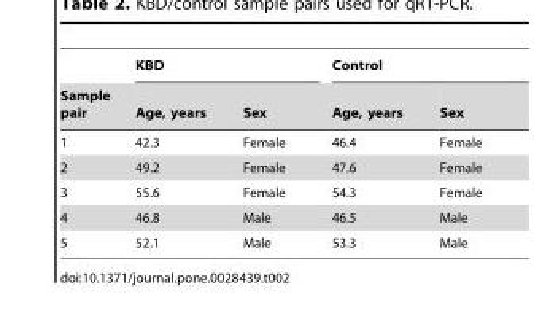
<table><thead><tr><td rowspan="2">Sample pair</td><td colspan="2">KBD</td><td colspan="2">Control</td></tr><tr><td>Age, years</td><td>Sex</td><td>Age, years</td><td>Sex</td></tr></thead><tbody><tr><td>1</td><td>42.3</td><td>Female</td><td>46.4</td><td>Female</td></tr><tr><td>2</td><td>49.2</td><td>Female</td><td>47.6</td><td>Female</td></tr><tr><td>3</td><td>55.6</td><td>Female</td><td>54.3</td><td>Female</td></tr><tr><td>4</td><td>46.8</td><td>Male</td><td>46.5</td><td>Male</td></tr><tr><td>5</td><td>52.1</td><td>Male</td><td>53.3</td><td>Male</td></tr></tbody></table>